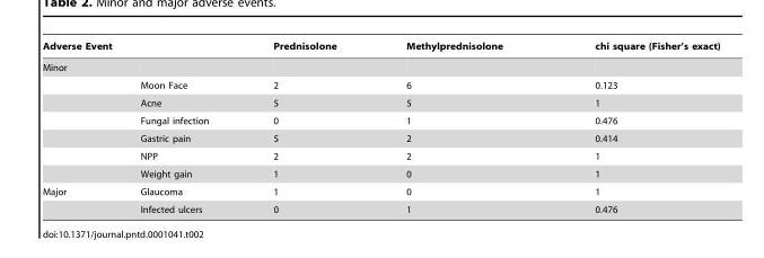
<table><thead><tr><td colspan="2">Adverse Event</td><td rowspan="2">Prednisolone</td><td rowspan="2">Methylprednisolone</td><td rowspan="2">chi square (Fisher’s exact)</td></tr><tr><td>Minor</td><td></td></tr></thead><tbody><tr><td></td><td>Moon Face</td><td>2</td><td>6</td><td>0.123</td></tr><tr><td></td><td>Acne</td><td>5</td><td>5</td><td>1</td></tr><tr><td></td><td>Fungal infection</td><td>0</td><td>1</td><td>0.476</td></tr><tr><td></td><td>Gastric pain</td><td>5</td><td>2</td><td>0.414</td></tr><tr><td></td><td>NPP</td><td>2</td><td>2</td><td>1</td></tr><tr><td></td><td>Weight gain</td><td>1</td><td>0</td><td>1</td></tr><tr><td rowspan="2">Major</td><td>Glaucoma</td><td>1</td><td>0</td><td>1</td></tr><tr><td>Infected ulcers</td><td>0</td><td>1</td><td>0.476</td></tr></tbody></table>